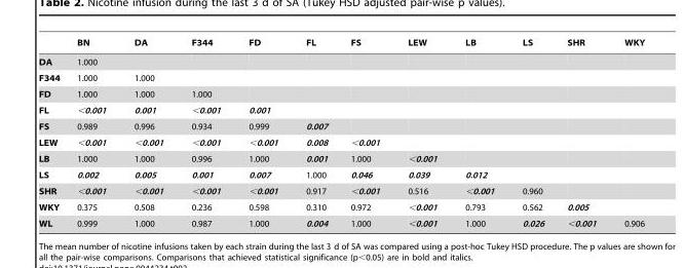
<table><thead><tr><td></td><td>BN</td><td>DA</td><td>F344</td><td>FD</td><td>FL</td><td>FS</td><td>LEW</td><td>LB</td><td>LS</td><td>SHR</td><td>WKY</td></tr></thead><tbody><tr><td>DA</td><td>1.000</td><td></td><td></td><td></td><td></td><td></td><td></td><td></td><td></td><td></td><td></td></tr><tr><td>F344</td><td>1.000</td><td>1.000</td><td></td><td></td><td></td><td></td><td></td><td></td><td></td><td></td><td></td></tr><tr><td>FD</td><td>1.000</td><td>1.000</td><td>1.000</td><td></td><td></td><td></td><td></td><td></td><td></td><td></td><td></td></tr><tr><td>FL</td><td>&lt;0.001</td><td>0.001</td><td>&lt;0.001</td><td>0.001</td><td></td><td></td><td></td><td></td><td></td><td></td><td></td></tr><tr><td>FS</td><td>0.989</td><td>0.996</td><td>0.934</td><td>0.999</td><td>0.007</td><td></td><td></td><td></td><td></td><td></td><td></td></tr><tr><td>LEW</td><td>&lt;0.001</td><td>&lt;0.001</td><td>&lt;0.001</td><td>&lt;0.001</td><td>0.008</td><td>&lt;0.001</td><td></td><td></td><td></td><td></td><td></td></tr><tr><td>LB</td><td>1.000</td><td>1.000</td><td>0.996</td><td>1.000</td><td>0.001</td><td>1.000</td><td>&lt;0.001</td><td></td><td></td><td></td><td></td></tr><tr><td>LS</td><td>0.002</td><td>0.005</td><td>0.001</td><td>0.007</td><td>1.000</td><td>0.046</td><td>0.039</td><td>0.012</td><td></td><td></td><td></td></tr><tr><td>SHR</td><td>&lt;0.001</td><td>&lt;0.001</td><td>&lt;0.001</td><td>&lt;0.001</td><td>0.917</td><td>&lt;0.001</td><td>0.516</td><td>&lt;0.001</td><td>0.960</td><td></td><td></td></tr><tr><td>WKY</td><td>0.375</td><td>0.508</td><td>0.236</td><td>0.598</td><td>0.310</td><td>0.972</td><td>&lt;0.001</td><td>0.793</td><td>0.562</td><td>0.005</td><td></td></tr><tr><td>WL</td><td>0.999</td><td>1.000</td><td>0.987</td><td>1.000</td><td>0.004</td><td>1.000</td><td>&lt;0.001</td><td>1.000</td><td>0.026</td><td>&lt;0.001</td><td>0.906</td></tr></tbody></table>